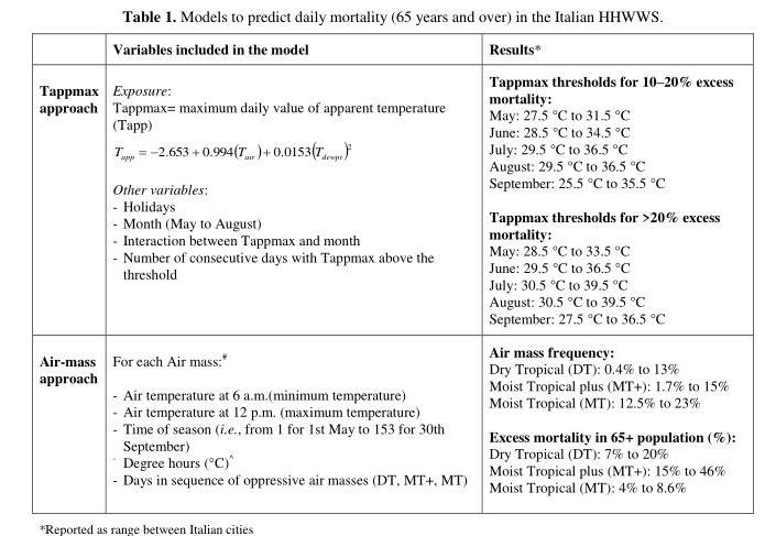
<table><thead><tr><td></td><td>Variables included in the model</td><td>Results*</td></tr></thead><tbody><tr><td>Tappmax approach</td><td>Exposure: Tappmax= maximum daily value of apparent temperature (Tapp)     2 0153 .0 994 .0 653 .2 dewpt air app T T T     Other variables: - Holidays - Month (May to August) - Interaction between Tappmax and month - Number of consecutive days with Tappmax above the threshold</td><td>Tappmax thresholds for 10–20% excess mortality: May: 27.5 °C to 31.5 °C June: 28.5 °C to 34.5 °C July: 29.5 °C to 36.5 °C August: 29.5 °C to 36.5 °C September: 25.5 °C to 35.5 °C Tappmax thresholds for &gt;20% excess mortality: May: 28.5 °C to 33.5 °C June: 29.5 °C to 36.5 °C July: 30.5 °C to 39.5 °C August: 30.5 °C to 39.5 °C September: 27.5 °C to 36.5 °C</td></tr><tr><td>Air-mass approach</td><td>For each Air mass:# - Air temperature at 6 a.m.(minimum temperature) - Air temperature at 12 p.m. (maximum temperature) - Time of season (i.e., from 1 for 1st May to 153 for 30th September) - Degree hours (°C)^ - Days in sequence of oppressive air masses (DT, MT+, MT)</td><td>Air mass frequency: Dry Tropical (DT): 0.4% to 13% Moist Tropical plus (MT+): 1.7% to 15% Moist Tropical (MT): 12.5% to 23% Excess mortality in 65+ population (%): Dry Tropical (DT): 7% to 20% Moist Tropical plus (MT+): 15% to 46% Moist Tropical (MT): 4% to 8.6%</td></tr></tbody></table>